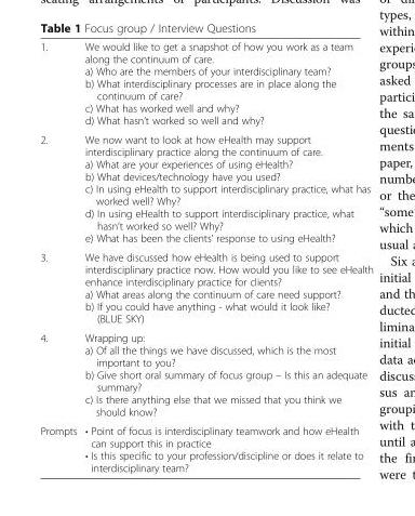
<table><tbody><tr><td>1.</td><td>We would like to get a snapshot of how you work as a team along the continuum of care. a) Who are the members of your interdisciplinary team? b) What interdisciplinary processes are in place along the continuum of care? c) What has worked well and why? d) What hasn’t worked so well and why?</td></tr><tr><td>2.</td><td>We now want to look at how eHealth may support interdisciplinary practice along the continuum of care. a) What are your experiences of using eHealth? b) What devices/technology have you used? c) In using eHealth to support interdisciplinary practice, what has worked well? Why? d) In using eHealth to support interdisciplinary practice, what hasn’t worked so well? Why? e) What has been the clients’ response to using eHealth?</td></tr><tr><td>3.</td><td>We have discussed how eHealth is being used to support interdisciplinary practice now. How would you like to see eHealth enhance interdisciplinary practice for clients? a) What areas along the continuum of care need support? b) If you could have anything - what would it look like? (BLUE SKY)</td></tr><tr><td>4.</td><td>Wrapping up: a) Of all the things we have discussed, which is the most important to you? b) Give short oral summary of focus group – Is this an adequate summary? c) Is there anything else that we missed that you think we should know?</td></tr><tr><td>Prompts</td><td>• Point of focus is interdisciplinary teamwork and how eHealth can support this in practice • Is this specific to your profession/discipline or does it relate to interdisciplinary team?</td></tr></tbody></table>